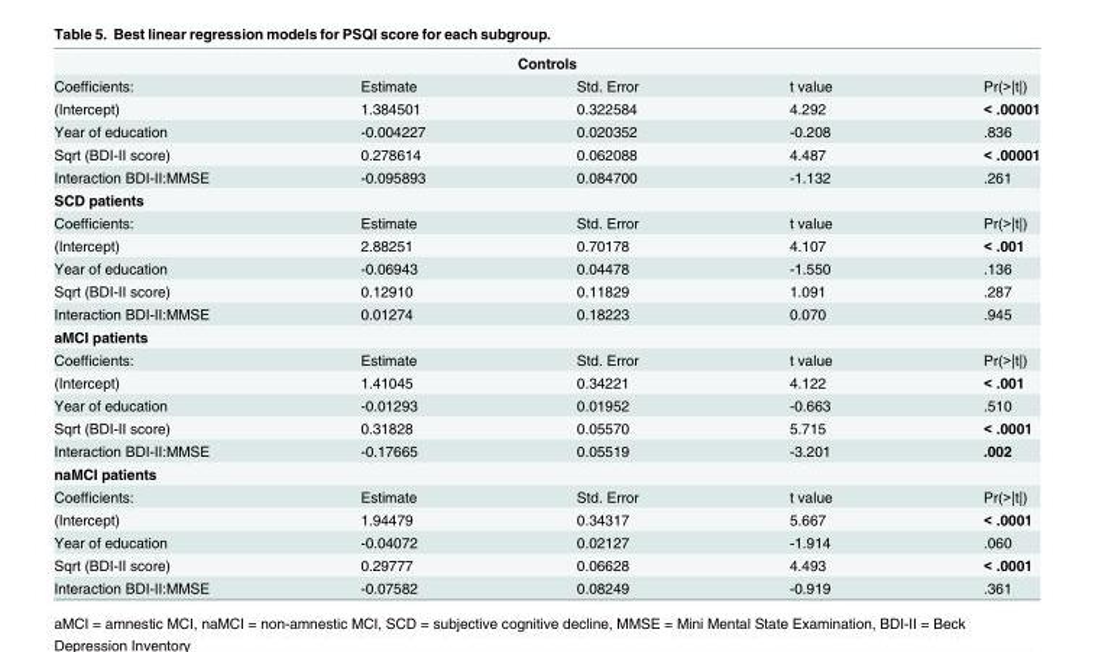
<table><tbody><tr><td colspan="5">Controls</td></tr><tr><td>Coefficients:</td><td>Estimate</td><td>Std. Error</td><td>t value</td><td>Pr(&gt;|t|)</td></tr><tr><td>(Intercept)</td><td>1.384501</td><td>0.322584</td><td>4.292</td><td>&lt; .00001</td></tr><tr><td>Year of education</td><td>-0.004227</td><td>0.020352</td><td>-0.208</td><td>.836</td></tr><tr><td>Sqrt (BDI-II score)</td><td>0.278614</td><td>0.062088</td><td>4.487</td><td>&lt; .00001</td></tr><tr><td>Interaction BDI-II:MMSE</td><td>-0.095893</td><td>0.084700</td><td>-1.132</td><td>.261</td></tr><tr><td colspan="5">SCD patients</td></tr><tr><td>Coefficients:</td><td>Estimate</td><td>Std. Error</td><td>t value</td><td>Pr(&gt;|t|)</td></tr><tr><td>(Intercept)</td><td>2.88251</td><td>0.70178</td><td>4.107</td><td>&lt; .001</td></tr><tr><td>Year of education</td><td>-0.06943</td><td>0.04478</td><td>-1.550</td><td>.136</td></tr><tr><td>Sqrt (BDI-II score)</td><td>0.12910</td><td>0.11829</td><td>1.091</td><td>.287</td></tr><tr><td>Interaction BDI-II:MMSE</td><td>0.01274</td><td>0.18223</td><td>0.070</td><td>.945</td></tr><tr><td colspan="5">aMCI patients</td></tr><tr><td>Coefficients:</td><td>Estimate</td><td>Std. Error</td><td>t value</td><td>Pr(&gt;|t|)</td></tr><tr><td>(Intercept)</td><td>1.41045</td><td>0.34221</td><td>4.122</td><td>&lt; .001</td></tr><tr><td>Year of education</td><td>-0.01293</td><td>0.01952</td><td>-0.663</td><td>.510</td></tr><tr><td>Sqrt (BDI-II score)</td><td>0.31828</td><td>0.05570</td><td>5.715</td><td>&lt; .0001</td></tr><tr><td>Interaction BDI-II:MMSE</td><td>-0.17665</td><td>0.05519</td><td>-3.201</td><td>.002</td></tr><tr><td colspan="5">naMCI patients</td></tr><tr><td>Coefficients:</td><td>Estimate</td><td>Std. Error</td><td>t value</td><td>Pr(&gt;|t|)</td></tr><tr><td>(Intercept)</td><td>1.94479</td><td>0.34317</td><td>5.667</td><td>&lt; .0001</td></tr><tr><td>Year of education</td><td>-0.04072</td><td>0.02127</td><td>-1.914</td><td>.060</td></tr><tr><td>Sqrt (BDI-II score)</td><td>0.29777</td><td>0.06628</td><td>4.493</td><td>&lt; .0001</td></tr><tr><td>Interaction BDI-II:MMSE</td><td>-0.07582</td><td>0.08249</td><td>-0.919</td><td>.361</td></tr></tbody></table>